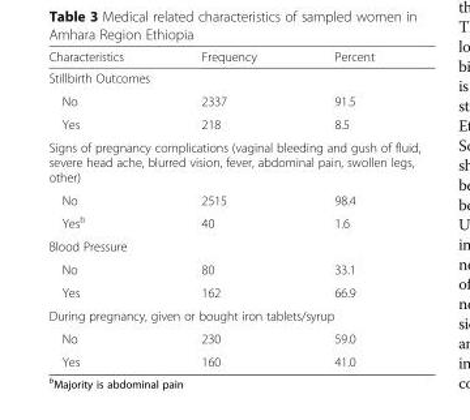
<table><thead><tr><td>Characteristics</td><td>Frequency</td><td>Percent</td></tr></thead><tbody><tr><td colspan="3">Stillbirth Outcomes</td></tr><tr><td>No</td><td>2337</td><td>91.5</td></tr><tr><td>Yes</td><td>218</td><td>8.5</td></tr><tr><td colspan="3">Signs of pregnancy complications (vaginal bleeding and gush of fluid, severe head ache, blurred vision, fever, abdominal pain, swollen legs, other)</td></tr><tr><td>No</td><td>2515</td><td>98.4</td></tr><tr><td>Yes<sup>b</sup></td><td>40</td><td>1.6</td></tr><tr><td colspan="3">Blood Pressure</td></tr><tr><td>No</td><td>80</td><td>33.1</td></tr><tr><td>Yes</td><td>162</td><td>66.9</td></tr><tr><td colspan="3">During pregnancy, given or bought iron tablets/syrup</td></tr><tr><td>No</td><td>230</td><td>59.0</td></tr><tr><td>Yes</td><td>160</td><td>41.0</td></tr></tbody></table>